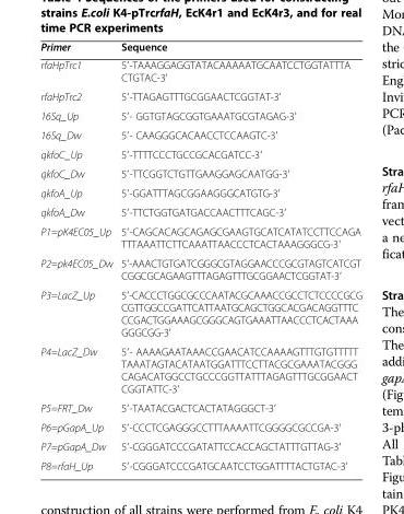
<table><thead><tr><td>Primer</td><td>Sequence</td></tr></thead><tbody><tr><td>rfaHpTrc1</td><td>5′-TAAAGGAGGTATACAAAAATGCAATCCTGGTATTTA CTGTAC-3′</td></tr><tr><td>rfaHpTrc2</td><td>5′-TTAGAGTTTGCGGAACTCGGTAT-3′</td></tr><tr><td>16Sq_Up</td><td>5′- GGTGTAGCGGTGAAATGCGTAGAG-3′</td></tr><tr><td>16Sq_Dw</td><td>5′- CAAGGGCACAACCTCCAAGTC-3′</td></tr><tr><td>qkfoC_Up</td><td>5′-TTTTCCCTGCCGCACGATCC-3′</td></tr><tr><td>qkfoC_Dw</td><td>5′-TTCGGTCTGTTGAAGGAGCAATGG-3′</td></tr><tr><td>qkfoA_Up</td><td>5′-GGATTTAGCGGAAGGGCATGTG-3′</td></tr><tr><td>qkfoA_Dw</td><td>5′-TTCTGGTGATGACCAACTTTCAGC-3′</td></tr><tr><td>P1=pK4EC05_Up</td><td>5′-CAGCACAGCAGAGCGAAGTGCATCATATCCTTCCAGA TTTAAATTCTTCAAATTAACCCTCACTAAAGGGCG-3′</td></tr><tr><td>P2=pk4EC05_Dw</td><td>5′-AAACTGTGATCGGGCGTAGGAACCCGCGTAGTCATCGT CGGCGCAGAAGTTTAGAGTTTGCGGAACTCGGTAT-3′</td></tr><tr><td>P3=LacZ_Up</td><td>5′-CACCCTGGCGCCCAATACGCAAACCGCCTCTCCCCGCG CGTTGGCCGATTCATTAATGCAGCTGGCACGACAGGTTTC CCGACTGGAAAGCGGGCAGTGAAATTAACCCTCACTAAA GGGCGG-3′</td></tr><tr><td>P4=LacZ_Dw</td><td>5′- AAAAGAATAAACCGAACATCCAAAAGTTTGTGTTTTT TAAATAGTACATAATGGATTTCCTTACGCGAAATACGGG CAGACATGGCCTGCCCGGTTATTTAGAGTTTGCGGAACT CGGTATTC-3′</td></tr><tr><td>P5=FRT_Dw</td><td>5′-TAATACGACTCACTATAGGGCT-3′</td></tr><tr><td>P6=pGapA_Up</td><td>5′-CCCTCGAGGGCCTTTAAAATTCGGGGCGCCGA-3′</td></tr><tr><td>P7=pGapA_Dw</td><td>5′-CGGGATCCCGATATTCCACCAGCTATTTGTTAG-3′</td></tr><tr><td>P8=rfaH_Up</td><td>5′-CGGGATCCCGATGCAATCCTGGATTTTACTGTAC-3′</td></tr></tbody></table>